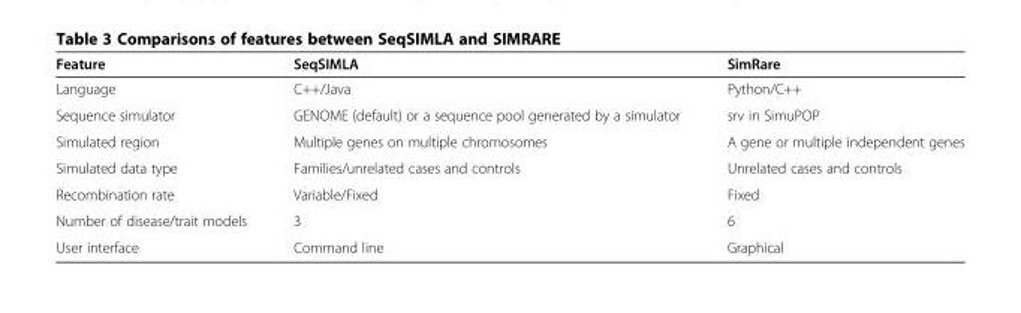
<table><thead><tr><td>Feature</td><td>SeqSIMLA</td><td>SimRare</td></tr></thead><tbody><tr><td>Language</td><td>C++/Java</td><td>Python/C++</td></tr><tr><td>Sequence simulator</td><td>GENOME (default) or a sequence pool generated by a simulator</td><td>srv in SimuPOP</td></tr><tr><td>Simulated region</td><td>Multiple genes on multiple chromosomes</td><td>A gene or multiple independent genes</td></tr><tr><td>Simulated data type</td><td>Families/unrelated cases and controls</td><td>Unrelated cases and controls</td></tr><tr><td>Recombination rate</td><td>Variable/Fixed</td><td>Fixed</td></tr><tr><td>Number of disease/trait models</td><td>3</td><td>6</td></tr><tr><td>User interface</td><td>Command line</td><td>Graphical</td></tr></tbody></table>